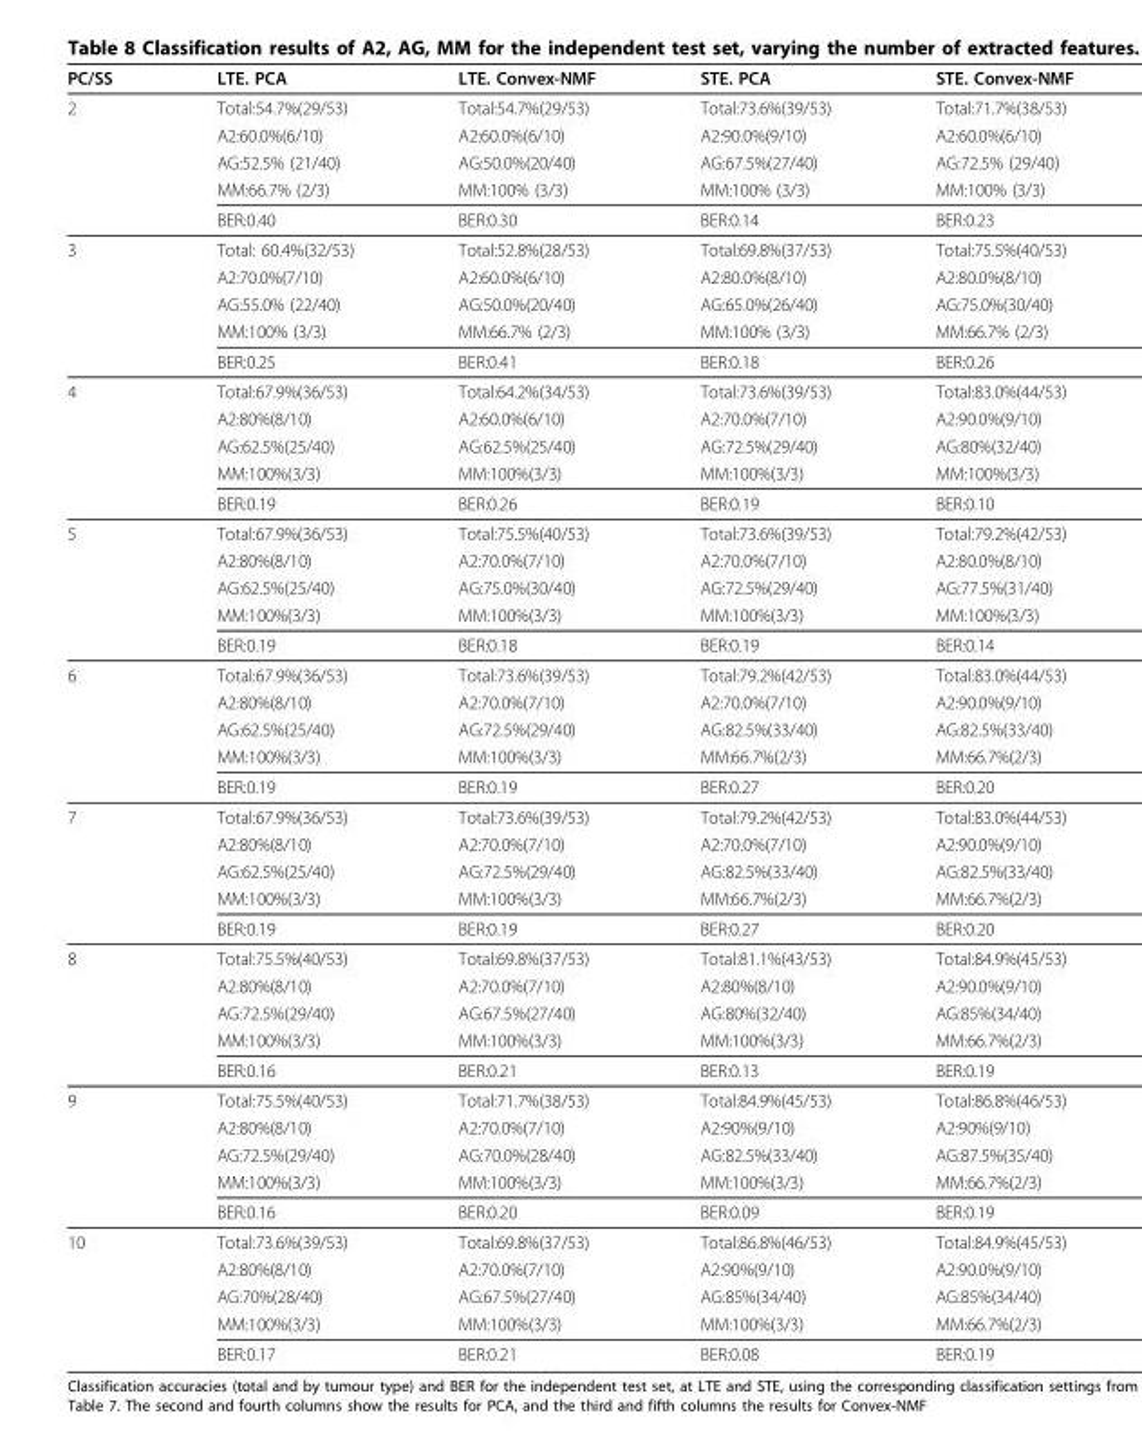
<table><thead><tr><td>PC/SS</td><td>LTE. PCA</td><td>LTE. Convex-NMF</td><td>STE. PCA</td><td>STE. Convex-NMF</td></tr></thead><tbody><tr><td rowspan="5">2</td><td>Total:54.7%(29/53)</td><td>Total:54.7%(29/53)</td><td>Total:73.6%(39/53)</td><td>Total:71.7%(38/53)</td></tr><tr><td>A2:60.0%(6/10)</td><td>A2:60.0%(6/10)</td><td>A2:90.0%(9/10)</td><td>A2:60.0%(6/10)</td></tr><tr><td>AG:52.5% (21/40)</td><td>AG:50.0%(20/40)</td><td>AG:67.5%(27/40)</td><td>AG:72.5% (29/40)</td></tr><tr><td>MM:66.7% (2/3)</td><td>MM:100% (3/3)</td><td>MM:100% (3/3)</td><td>MM:100% (3/3)</td></tr><tr><td>BER:0.40</td><td>BER:0.30</td><td>BER:0.14</td><td>BER:0.23</td></tr><tr><td rowspan="5">3</td><td>Total: 60.4%(32/53)</td><td>Total:52.8%(28/53)</td><td>Total:69.8%(37/53)</td><td>Total:75.5%(40/53)</td></tr><tr><td>A2:70.0%(7/10)</td><td>A2:60.0%(6/10)</td><td>A2:80.0%(8/10)</td><td>A2:80.0%(8/10)</td></tr><tr><td>AG:55.0% (22/40)</td><td>AG:50.0%(20/40)</td><td>AG:65.0%(26/40)</td><td>AG:75.0%(30/40)</td></tr><tr><td>MM:100% (3/3)</td><td>MM:66.7% (2/3)</td><td>MM:100% (3/3)</td><td>MM:66.7% (2/3)</td></tr><tr><td>BER:0.25</td><td>BER:0.41</td><td>BER:0.18</td><td>BER:0.26</td></tr><tr><td rowspan="5">4</td><td>Total:67.9%(36/53)</td><td>Total:64.2%(34/53)</td><td>Total:73.6%(39/53)</td><td>Total:83.0%(44/53)</td></tr><tr><td>A2:80%(8/10)</td><td>A2:60.0%(6/10)</td><td>A2:70.0%(7/10)</td><td>A2:90.0%(9/10)</td></tr><tr><td>AG:62.5%(25/40)</td><td>AG:62.5%(25/40)</td><td>AG:72.5%(29/40)</td><td>AG:80%(32/40)</td></tr><tr><td>MM:100%(3/3)</td><td>MM:100%(3/3)</td><td>MM:100%(3/3)</td><td>MM:100%(3/3)</td></tr><tr><td>BER:0.19</td><td>BER:0.26</td><td>BER:0.19</td><td>BER:0.10</td></tr><tr><td rowspan="5">5</td><td>Total:67.9%(36/53)</td><td>Total:75.5%(40/53)</td><td>Total:73.6%(39/53)</td><td>Total:79.2%(42/53)</td></tr><tr><td>A2:80%(8/10)</td><td>A2:70.0%(7/10)</td><td>A2:70.0%(7/10)</td><td>A2:80.0%(8/10)</td></tr><tr><td>AG:62.5%(25/40)</td><td>AG:75.0%(30/40)</td><td>AG:72.5%(29/40)</td><td>AG:77.5%(31/40)</td></tr><tr><td>MM:100%(3/3)</td><td>MM:100%(3/3)</td><td>MM:100%(3/3)</td><td>MM:100%(3/3)</td></tr><tr><td>BER:0.19</td><td>BER:0.18</td><td>BER:0.19</td><td>BER:0.14</td></tr><tr><td rowspan="5">6</td><td>Total:67.9%(36/53)</td><td>Total:73.6%(39/53)</td><td>Total:79.2%(42/53)</td><td>Total:83.0%(44/53)</td></tr><tr><td>A2:80%(8/10)</td><td>A2:70.0%(7/10)</td><td>A2:70.0%(7/10)</td><td>A2:90.0%(9/10)</td></tr><tr><td>AG:62.5%(25/40)</td><td>AG:72.5%(29/40)</td><td>AG:82.5%(33/40)</td><td>AG:82.5%(33/40)</td></tr><tr><td>MM:100%(3/3)</td><td>MM:100%(3/3)</td><td>MM:66.7%(2/3)</td><td>MM:66.7%(2/3)</td></tr><tr><td>BER:0.19</td><td>BER:0.19</td><td>BER:0.27</td><td>BER:0.20</td></tr><tr><td rowspan="5">7</td><td>Total:67.9%(36/53)</td><td>Total:73.6%(39/53)</td><td>Total:79.2%(42/53)</td><td>Total:83.0%(44/53)</td></tr><tr><td>A2:80%(8/10)</td><td>A2:70.0%(7/10)</td><td>A2:70.0%(7/10)</td><td>A2:90.0%(9/10)</td></tr><tr><td>AG:62.5%(25/40)</td><td>AG:72.5%(29/40)</td><td>AG:82.5%(33/40)</td><td>AG:82.5%(33/40)</td></tr><tr><td>MM:100%(3/3)</td><td>MM:100%(3/3)</td><td>MM:66.7%(2/3)</td><td>MM:66.7%(2/3)</td></tr><tr><td>BER:0.19</td><td>BER:0.19</td><td>BER:0.27</td><td>BER:0.20</td></tr><tr><td rowspan="5">8</td><td>Total:75.5%(40/53)</td><td>Total:69.8%(37/53)</td><td>Total:81.1%(43/53)</td><td>Total:84.9%(45/53)</td></tr><tr><td>A2:80%(8/10)</td><td>A2:70.0%(7/10)</td><td>A2:80%(8/10)</td><td>A2:90.0%(9/10)</td></tr><tr><td>AG:72.5%(29/40)</td><td>AG:67.5%(27/40)</td><td>AG:80%(32/40)</td><td>AG:85%(34/40)</td></tr><tr><td>MM:100%(3/3)</td><td>MM:100%(3/3)</td><td>MM:100%(3/3)</td><td>MM:66.7%(2/3)</td></tr><tr><td>BER:0.16</td><td>BER:0.21</td><td>BER:0.13</td><td>BER:0.19</td></tr><tr><td rowspan="5">9</td><td>Total:75.5%(40/53)</td><td>Total:71.7%(38/53)</td><td>Total:84.9%(45/53)</td><td>Total:86.8%(46/53)</td></tr><tr><td>A2:80%(8/10)</td><td>A2:70.0%(7/10)</td><td>A2:90%(9/10)</td><td>A2:90%(9/10)</td></tr><tr><td>AG:72.5%(29/40)</td><td>AG:70.0%(28/40)</td><td>AG:82.5%(33/40)</td><td>AG:87.5%(35/40)</td></tr><tr><td>MM:100%(3/3)</td><td>MM:100%(3/3)</td><td>MM:100%(3/3)</td><td>MM:66.7%(2/3)</td></tr><tr><td>BER:0.16</td><td>BER:0.20</td><td>BER:0.09</td><td>BER:0.19</td></tr><tr><td rowspan="5">10</td><td>Total:73.6%(39/53)</td><td>Total:69.8%(37/53)</td><td>Total:86.8%(46/53)</td><td>Total:84.9%(45/53)</td></tr><tr><td>A2:80%(8/10)</td><td>A2:70.0%(7/10)</td><td>A2:90%(9/10)</td><td>A2:90.0%(9/10)</td></tr><tr><td>AG:70%(28/40)</td><td>AG:67.5%(27/40)</td><td>AG:85%(34/40)</td><td>AG:85%(34/40)</td></tr><tr><td>MM:100%(3/3)</td><td>MM:100%(3/3)</td><td>MM:100%(3/3)</td><td>MM:66.7%(2/3)</td></tr><tr><td>BER:0.17</td><td>BER:0.21</td><td>BER:0.08</td><td>BER:0.19</td></tr></tbody></table>